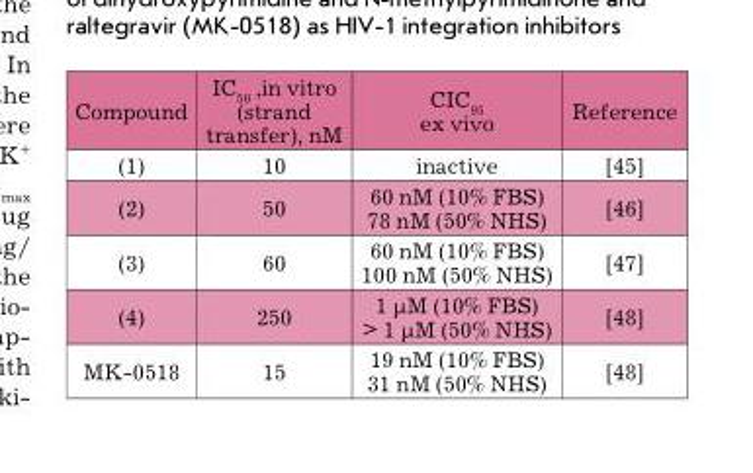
<table><thead><tr><td>Compound</td><td>IC<sub>50</sub> ,in vitro (strand transfer), nM</td><td>CIC<sub>95</sub> ex vivo</td><td>Reference</td></tr></thead><tbody><tr><td>(1)</td><td>10</td><td>inactive</td><td>[45]</td></tr><tr><td>(2)</td><td>50</td><td>60 nM (10% FBS) 78 nM (50% NHS)</td><td>[46]</td></tr><tr><td>(3)</td><td>60</td><td>60 nM (10% FBS) 100 nM (50% NHS)</td><td>[47]</td></tr><tr><td>(4)</td><td>250</td><td>1 µM (10% FBS) &gt; 1 µM (50% NHS)</td><td>[48]</td></tr><tr><td>MK-0518</td><td>15</td><td>19 nM (10% FBS) 31 nM (50% NHS)</td><td>[48]</td></tr></tbody></table>